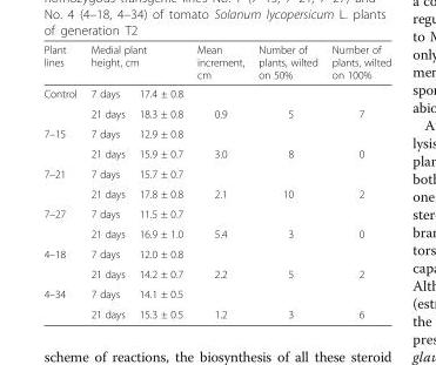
<table><thead><tr><td rowspan="2">Plant lines Control</td><td colspan="2">Medial plant height, cm</td><td rowspan="2">Mean increment, cm</td><td rowspan="2">Number of plants, wilted on 50%</td><td rowspan="2">Number of plants, wilted on 100%</td></tr><tr><td>7 days</td><td>17.4 ± 0.8</td></tr></thead><tbody><tr><td></td><td>21 days</td><td>18.3 ± 0.8</td><td>0.9</td><td>5</td><td>7</td></tr><tr><td rowspan="2">7–15</td><td>7 days</td><td>12.9 ± 0.8</td><td></td><td></td><td></td></tr><tr><td>21 days</td><td>15.9 ± 0.7</td><td>3.0</td><td>8</td><td>0</td></tr><tr><td rowspan="2">7–21</td><td>7 days</td><td>15.7 ± 0.7</td><td></td><td></td><td></td></tr><tr><td>21 days</td><td>17.8 ± 0.8</td><td>2.1</td><td>10</td><td>2</td></tr><tr><td rowspan="2">7–27</td><td>7 days</td><td>11.5 ± 0.7</td><td></td><td></td><td></td></tr><tr><td>21 days</td><td>16.9 ± 1.0</td><td>5.4</td><td>3</td><td>0</td></tr><tr><td rowspan="2">4–18</td><td>7 days</td><td>12.0 ± 0.8</td><td></td><td></td><td></td></tr><tr><td>21 days</td><td>14.2 ± 0.7</td><td>2.2</td><td>5</td><td>2</td></tr><tr><td rowspan="2">4–34</td><td>7 days</td><td>14.1 ± 0.5</td><td></td><td></td><td></td></tr><tr><td>21 days</td><td>15.3 ± 0.5</td><td>1.2</td><td>3</td><td>6</td></tr></tbody></table>